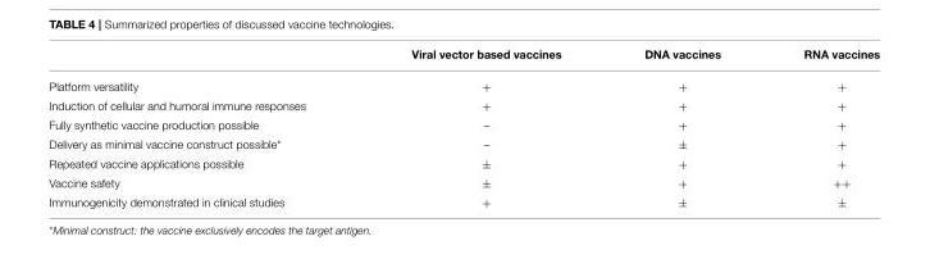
<table><thead><tr><td></td><td>Viral vector based vaccines</td><td>DNA vaccines</td><td>RNA vaccines</td></tr></thead><tbody><tr><td>Platform versatility</td><td>+</td><td>+</td><td>+</td></tr><tr><td>Induction of cellular and humoral immune responses</td><td>+</td><td>+</td><td>+</td></tr><tr><td>Fully synthetic vaccine production possible</td><td>–</td><td>+</td><td>+</td></tr><tr><td>Delivery as minimal vaccine construct possible*</td><td>–</td><td>±</td><td>+</td></tr><tr><td>Repeated vaccine applications possible</td><td>±</td><td>+</td><td>+</td></tr><tr><td>Vaccine safety</td><td>±</td><td>+</td><td>++</td></tr><tr><td>Immunogenicity demonstrated in clinical studies</td><td>+</td><td>±</td><td>±</td></tr></tbody></table>